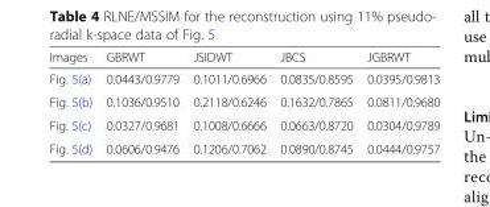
<table><thead><tr><td>Images</td><td>GBRWT</td><td>JSIDWT</td><td>JBCS</td><td>JGBRWT</td></tr></thead><tbody><tr><td>Fig. 5(a)</td><td>0.0443/0.9779</td><td>0.1011/0.6966</td><td>0.0835/0.8595</td><td>0.0395/0.9813</td></tr><tr><td>Fig. 5(b)</td><td>0.1036/0.9510</td><td>0.2118/0.6246</td><td>0.1632/0.7865</td><td>0.0811/0.9680</td></tr><tr><td>Fig. 5(c)</td><td>0.0327/0.9681</td><td>0.1008/0.6666</td><td>0.0663/0.8720</td><td>0.0304/0.9789</td></tr><tr><td>Fig. 5(d)</td><td>0.0606/0.9476</td><td>0.1206/0.7062</td><td>0.0890/0.8745</td><td>0.0444/0.9757</td></tr></tbody></table>